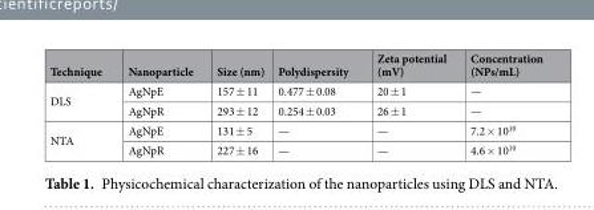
<table><thead><tr><td>Technique</td><td>Nanoparticle</td><td>Size (nm)</td><td>Polydispersity</td><td>Zeta potential (mV)</td><td>Concentration (NPs/mL)</td></tr></thead><tbody><tr><td rowspan="2">DLS</td><td>AgNpE</td><td>157 ± 11</td><td>0.477 ± 0.08</td><td>20 ± 1</td><td>—</td></tr><tr><td>AgNpR</td><td>293 ± 12</td><td>0.254 ± 0.03</td><td>26 ± 1</td><td>—</td></tr><tr><td rowspan="2">NTA</td><td>AgNpE</td><td>131 ± 5</td><td>—</td><td>—</td><td>7.2 × 10<sup>10</sup></td></tr><tr><td>AgNpR</td><td>227 ± 16</td><td>—</td><td>—</td><td>4.6 × 10<sup>10</sup></td></tr></tbody></table>